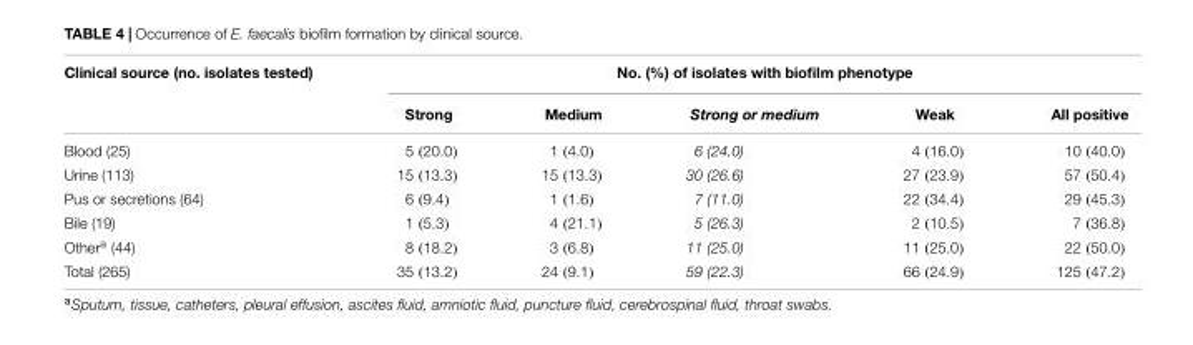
<table><thead><tr><td rowspan="2">Clinical source (no. isolates tested)</td><td colspan="5">No. (%) of isolates with biofilm phenotype</td></tr><tr><td>Strong</td><td>Medium</td><td>Strong or medium</td><td>Weak</td><td>All positive</td></tr></thead><tbody><tr><td>Blood (25)</td><td>5 (20.0)</td><td>1 (4.0)</td><td>6 (24.0)</td><td>4 (16.0)</td><td>10 (40.0)</td></tr><tr><td>Urine (113)</td><td>15 (13.3)</td><td>15 (13.3)</td><td>30 (26.6)</td><td>27 (23.9)</td><td>57 (50.4)</td></tr><tr><td>Pus or secretions (64)</td><td>6 (9.4)</td><td>1 (1.6)</td><td>7 (11.0)</td><td>22 (34.4)</td><td>29 (45.3)</td></tr><tr><td>Bile (19)</td><td>1 (5.3)</td><td>4 (21.1)</td><td>5 (26.3)</td><td>2 (10.5)</td><td>7 (36.8)</td></tr><tr><td>Other<sup>a</sup> (44)</td><td>8 (18.2)</td><td>3 (6.8)</td><td>11 (25.0)</td><td>11 (25.0)</td><td>22 (50.0)</td></tr><tr><td>Total (265)</td><td>35 (13.2)</td><td>24 (9.1)</td><td>59 (22.3)</td><td>66 (24.9)</td><td>125 (47.2)</td></tr></tbody></table>